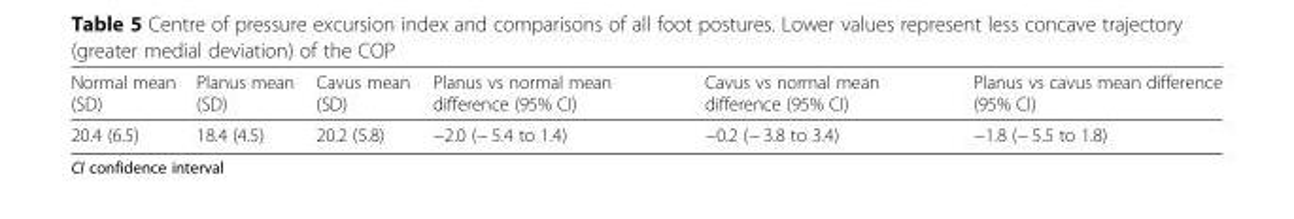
<table><thead><tr><td>Normal mean (SD)</td><td>Planus mean (SD)</td><td>Cavus mean (SD)</td><td>Planus vs normal mean difference (95% CI)</td><td>Cavus vs normal mean difference (95% CI)</td><td>Planus vs cavus mean difference (95% CI)</td></tr></thead><tbody><tr><td>20.4 (6.5)</td><td>18.4 (4.5)</td><td>20.2 (5.8)</td><td>−2.0 (− 5.4 to 1.4)</td><td>−0.2 (− 3.8 to 3.4)</td><td>−1.8 (− 5.5 to 1.8)</td></tr></tbody></table>